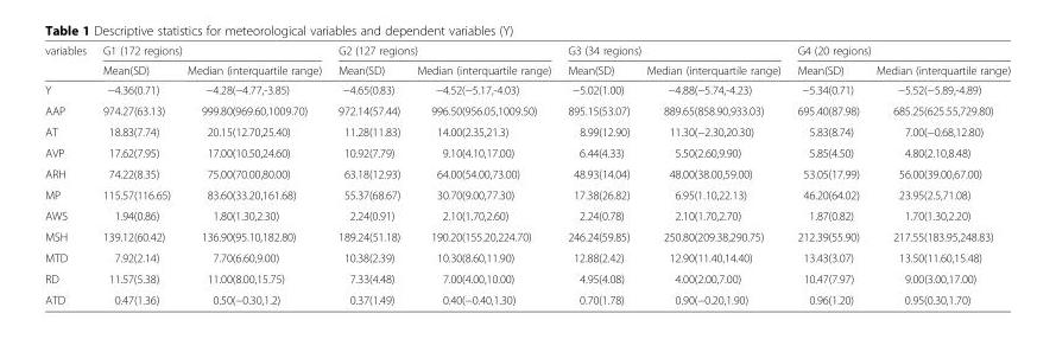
<table><thead><tr><td rowspan="2">variables</td><td colspan="2">G1 (172 regions)</td><td colspan="2">G2 (127 regions)</td><td colspan="2">G3 (34 regions)</td><td colspan="2">G4 (20 regions)</td></tr><tr><td>Mean(SD)</td><td>Median (interquartile range)</td><td>Mean(SD)</td><td>Median (interquartile range)</td><td>Mean(SD)</td><td>Median (interquartile range)</td><td>Mean(SD)</td><td>Median (interquartile range)</td></tr></thead><tbody><tr><td>Y</td><td>−4.36(0.71)</td><td>−4.28(−4.77,-3.85)</td><td>−4.65(0.83)</td><td>−4.52(−5.17,-4.03)</td><td>−5.02(1.00)</td><td>−4.88(−5.74,-4.23)</td><td>−5.34(0.71)</td><td>−5.52(−5.89,-4.89)</td></tr><tr><td>AAP</td><td>974.27(63.13)</td><td>999.80(969.60,1009.70)</td><td>972.14(57.44)</td><td>996.50(956.05,1009.50)</td><td>895.15(53.07)</td><td>889.65(858.90,933.03)</td><td>695.40(87.98)</td><td>685.25(625.55,729.80)</td></tr><tr><td>AT</td><td>18.83(7.74)</td><td>20.15(12.70,25.40)</td><td>11.28(11.83)</td><td>14.00(2.35,21.3)</td><td>8.99(12.90)</td><td>11.30(−2.30,20.30)</td><td>5.83(8.74)</td><td>7.00(−0.68,12.80)</td></tr><tr><td>AVP</td><td>17.62(7.95)</td><td>17.00(10.50,24.60)</td><td>10.92(7.79)</td><td>9.10(4.10,17.00)</td><td>6.44(4.33)</td><td>5.50(2.60,9.90)</td><td>5.85(4.50)</td><td>4.80(2.10,8.48)</td></tr><tr><td>ARH</td><td>74.22(8.35)</td><td>75.00(70.00,80.00)</td><td>63.18(12.93)</td><td>64.00(54.00,73.00)</td><td>48.93(14.04)</td><td>48.00(38.00,59.00)</td><td>53.05(17.99)</td><td>56.00(39.00,67.00)</td></tr><tr><td>MP</td><td>115.57(116.65)</td><td>83.60(33.20,161.68)</td><td>55.37(68.67)</td><td>30.70(9.00,77.30)</td><td>17.38(26.82)</td><td>6.95(1.10,22.13)</td><td>46.20(64.02)</td><td>23.95(2.5,71.08)</td></tr><tr><td>AWS</td><td>1.94(0.86)</td><td>1.80(1.30,2.30)</td><td>2.24(0.91)</td><td>2.10(1.70,2.60)</td><td>2.24(0.78)</td><td>2.10(1.70,2.70)</td><td>1.87(0.82)</td><td>1.70(1.30,2.20)</td></tr><tr><td>MSH</td><td>139.12(60.42)</td><td>136.90(95.10,182.80)</td><td>189.24(51.18)</td><td>190.20(155.20,224.70)</td><td>246.24(59.85)</td><td>250.80(209.38,290.75)</td><td>212.39(55.90)</td><td>217.55(183.95,248.83)</td></tr><tr><td>MTD</td><td>7.92(2.14)</td><td>7.70(6.60,9.00)</td><td>10.38(2.39)</td><td>10.30(8.60,11.90)</td><td>12.88(2.42)</td><td>12.90(11.40,14.40)</td><td>13.43(3.07)</td><td>13.50(11.60,15.48)</td></tr><tr><td>RD</td><td>11.57(5.38)</td><td>11.00(8.00,15.75)</td><td>7.33(4.48)</td><td>7.00(4.00,10.00)</td><td>4.95(4.08)</td><td>4.00(2.00,7.00)</td><td>10.47(7.97)</td><td>9.00(3.00,17.00)</td></tr><tr><td>ATD</td><td>0.47(1.36)</td><td>0.50(−0.30,1.2)</td><td>0.37(1.49)</td><td>0.40(−0.40,1.30)</td><td>0.70(1.78)</td><td>0.90(−0.20,1.90)</td><td>0.96(1.20)</td><td>0.95(0.30,1.70)</td></tr></tbody></table>